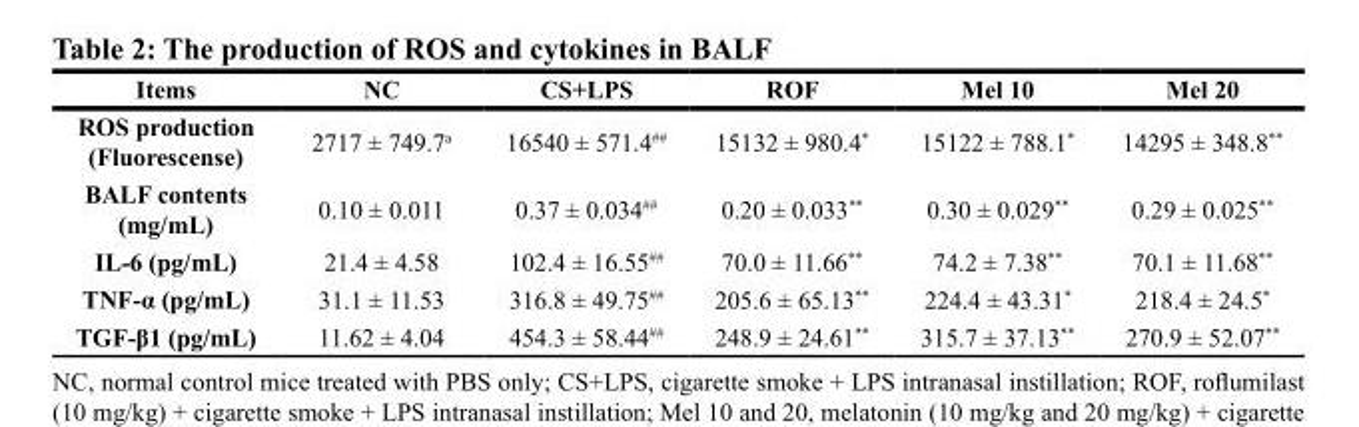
<table><thead><tr><td>Items</td><td>NC</td><td>CS+LPS</td><td>ROF</td><td>Mel 10</td><td>Mel 20</td></tr></thead><tbody><tr><td>ROS production (Fluorescense)</td><td>2717 ± 749.7<sup>a</sup></td><td>16540 ± 571.4<sup>##</sup></td><td>15132 ± 980.4*</td><td>15122 ± 788.1*</td><td>14295 ± 348.8**</td></tr><tr><td>BALF contents (mg/mL)</td><td>0.10 ± 0.011</td><td>0.37 ± 0.034<sup>##</sup></td><td>0.20 ± 0.033**</td><td>0.30 ± 0.029**</td><td>0.29 ± 0.025**</td></tr><tr><td>IL-6 (pg/mL)</td><td>21.4 ± 4.58</td><td>102.4 ± 16.55<sup>##</sup></td><td>70.0 ± 11.66**</td><td>74.2 ± 7.38**</td><td>70.1 ± 11.68**</td></tr><tr><td>TNF-α (pg/mL)</td><td>31.1 ± 11.53</td><td>316.8 ± 49.75<sup>##</sup></td><td>205.6 ± 65.13**</td><td>224.4 ± 43.31*</td><td>218.4 ± 24.5*</td></tr><tr><td>TGF-β1 (pg/mL)</td><td>11.62 ± 4.04</td><td>454.3 ± 58.44<sup>##</sup></td><td>248.9 ± 24.61**</td><td>315.7 ± 37.13**</td><td>270.9 ± 52.07**</td></tr></tbody></table>